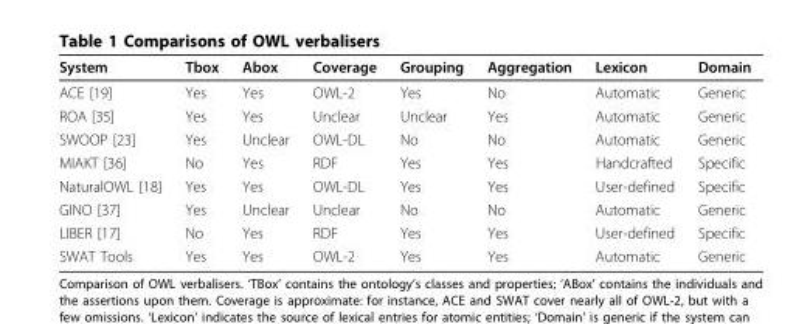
<table><thead><tr><td>System</td><td>Tbox</td><td>Abox</td><td>Coverage</td><td>Grouping</td><td>Aggregation</td><td>Lexicon</td><td>Domain</td></tr></thead><tbody><tr><td>ACE [19]</td><td>Yes</td><td>Yes</td><td>OWL-2</td><td>Yes</td><td>No</td><td>Automatic</td><td>Generic</td></tr><tr><td>ROA [35]</td><td>Yes</td><td>Yes</td><td>Unclear</td><td>Unclear</td><td>Yes</td><td>Automatic</td><td>Generic</td></tr><tr><td>SWOOP [23]</td><td>Yes</td><td>Unclear</td><td>OWL-DL</td><td>No</td><td>No</td><td>Automatic</td><td>Generic</td></tr><tr><td>MIAKT [36]</td><td>No</td><td>Yes</td><td>RDF</td><td>Yes</td><td>Yes</td><td>Handcrafted</td><td>Specific</td></tr><tr><td>NaturalOWL [18]</td><td>Yes</td><td>Yes</td><td>OWL-DL</td><td>Yes</td><td>Yes</td><td>User-defined</td><td>Specific</td></tr><tr><td>GINO [37]</td><td>Yes</td><td>Unclear</td><td>Unclear</td><td>No</td><td>No</td><td>Automatic</td><td>Generic</td></tr><tr><td>LIBER [17]</td><td>No</td><td>Yes</td><td>RDF</td><td>Yes</td><td>Yes</td><td>User-defined</td><td>Specific</td></tr><tr><td>SWAT Tools</td><td>Yes</td><td>Yes</td><td>OWL-2</td><td>Yes</td><td>Yes</td><td>Automatic</td><td>Generic</td></tr></tbody></table>